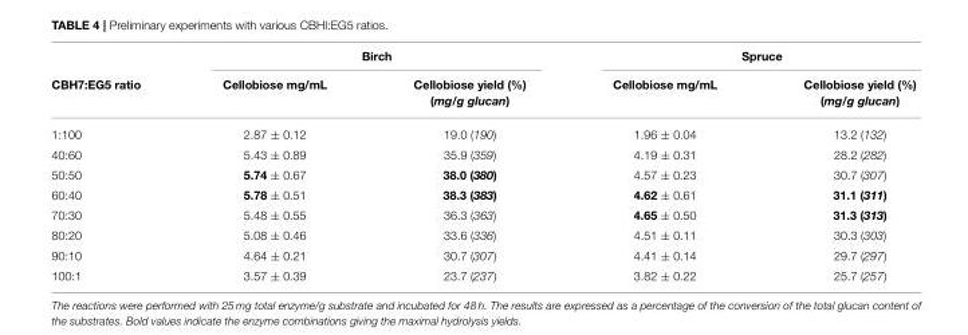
<table><thead><tr><td rowspan="2">CBH7:EG5 ratio</td><td colspan="2">Birch</td><td colspan="2">Spruce</td></tr><tr><td>Cellobiose mg/mL</td><td>Cellobiose yield (%) (mg/g glucan)</td><td>Cellobiose mg/mL</td><td>Cellobiose yield (%) (mg/g glucan)</td></tr></thead><tbody><tr><td>1:100</td><td>2.87 ± 0.12</td><td>19.0 (190)</td><td>1.96 ± 0.04</td><td>13.2 (132)</td></tr><tr><td>40:60</td><td>5.43 ± 0.89</td><td>35.9 (359)</td><td>4.19 ± 0.31</td><td>28.2 (282)</td></tr><tr><td>50:50</td><td>5.74 ± 0.67</td><td>38.0 (380)</td><td>4.57 ± 0.23</td><td>30.7 (307)</td></tr><tr><td>60:40</td><td>5.78 ± 0.51</td><td>38.3 (383)</td><td>4.62 ± 0.61</td><td>31.1 (311)</td></tr><tr><td>70:30</td><td>5.48 ± 0.55</td><td>36.3 (363)</td><td>4.65 ± 0.50</td><td>31.3 (313)</td></tr><tr><td>80:20</td><td>5.08 ± 0.46</td><td>33.6 (336)</td><td>4.51 ± 0.11</td><td>30.3 (303)</td></tr><tr><td>90:10</td><td>4.64 ± 0.21</td><td>30.7 (307)</td><td>4.41 ± 0.14</td><td>29.7 (297)</td></tr><tr><td>100:1</td><td>3.57 ± 0.39</td><td>23.7 (237)</td><td>3.82 ± 0.22</td><td>25.7 (257)</td></tr></tbody></table>